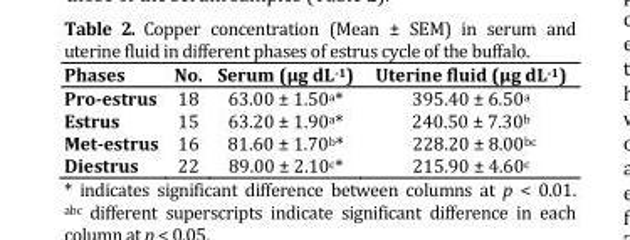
<table><thead><tr><td>Phases</td><td>No.</td><td>Serum (μg dL<sup>-1</sup>)</td><td>Uterine fluid (μg dL<sup>-1</sup>)</td></tr></thead><tbody><tr><td>Pro-estrus</td><td>18</td><td>63.00 ± 1.50<sup>a</sup>*</td><td>395.40 ± 6.50<sup>a</sup></td></tr><tr><td>Estrus</td><td>15</td><td>63.20 ± 1.90<sup>a</sup>*</td><td>240.50 ± 7.30<sup>b</sup></td></tr><tr><td>Met-estrus</td><td>16</td><td>81.60 ± 1.70<sup>b</sup>*</td><td>228.20 ± 8.00<sup>bc</sup></td></tr><tr><td>Diestrus</td><td>22</td><td>89.00 ± 2.10<sup>c</sup>*</td><td>215.90 ± 4.60<sup>c</sup></td></tr></tbody></table>